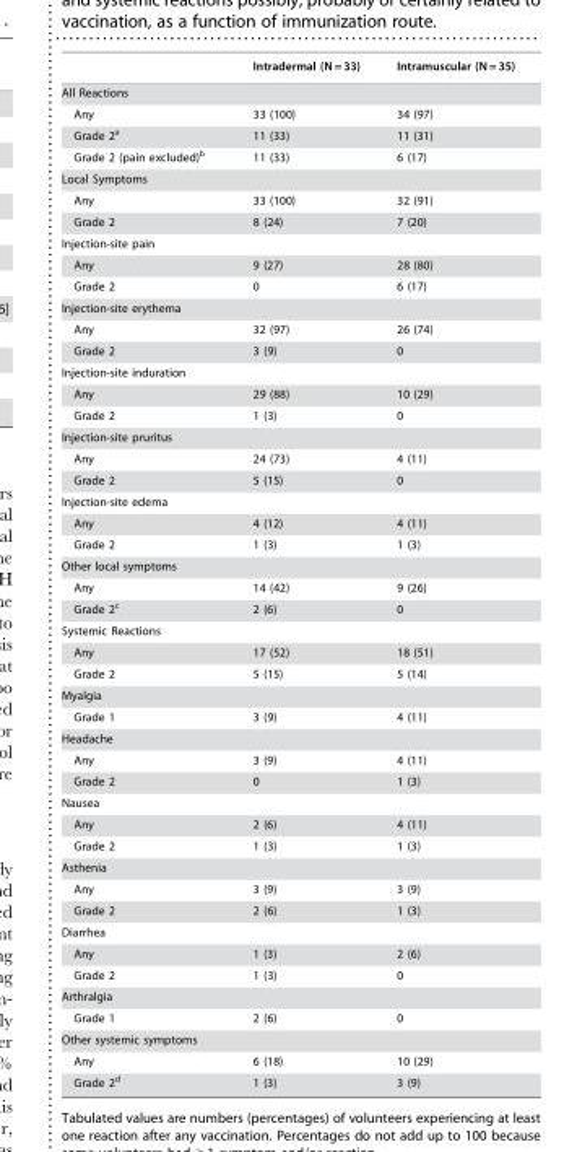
<table><thead><tr><td></td><td>Intradermal (N = 33)</td><td>Intramuscular (N = 35)</td></tr></thead><tbody><tr><td colspan="3">All Reactions</td></tr><tr><td>Any</td><td>33 (100)</td><td>34 (97)</td></tr><tr><td>Grade 2<sup>a</sup></td><td>11 (33)</td><td>11 (31)</td></tr><tr><td>Grade 2 (pain excluded)<sup>b</sup></td><td>11 (33)</td><td>6 (17)</td></tr><tr><td colspan="3">Local Symptoms</td></tr><tr><td>Any</td><td>33 (100)</td><td>32 (91)</td></tr><tr><td>Grade 2</td><td>8 (24)</td><td>7 (20)</td></tr><tr><td colspan="3">Injection-site pain</td></tr><tr><td>Any</td><td>9 (27)</td><td>28 (80)</td></tr><tr><td>Grade 2</td><td>0</td><td>6 (17)</td></tr><tr><td colspan="3">Injection-site erythema</td></tr><tr><td>Any</td><td>32 (97)</td><td>26 (74)</td></tr><tr><td>Grade 2</td><td>3 (9)</td><td>0</td></tr><tr><td colspan="3">Injection-site induration</td></tr><tr><td>Any</td><td>29 (88)</td><td>10 (29)</td></tr><tr><td>Grade 2</td><td>1 (3)</td><td>0</td></tr><tr><td colspan="3">Injection-site pruritus</td></tr><tr><td>Any</td><td>24 (73)</td><td>4 (11)</td></tr><tr><td>Grade 2</td><td>5 (15)</td><td>0</td></tr><tr><td colspan="3">Injection-site edema</td></tr><tr><td>Any</td><td>4 (12)</td><td>4 (11)</td></tr><tr><td>Grade 2</td><td>1 (3)</td><td>1 (3)</td></tr><tr><td colspan="3">Other local symptoms</td></tr><tr><td>Any</td><td>14 (42)</td><td>9 (26)</td></tr><tr><td>Grade 2<sup>c</sup></td><td>2 (6)</td><td>0</td></tr><tr><td colspan="3">Systemic Reactions</td></tr><tr><td>Any</td><td>17 (52)</td><td>18 (51)</td></tr><tr><td>Grade 2</td><td>5 (15)</td><td>5 (14)</td></tr><tr><td colspan="3">Myalgia</td></tr><tr><td>Grade 1</td><td>3 (9)</td><td>4 (11)</td></tr><tr><td colspan="3">Headache</td></tr><tr><td>Any</td><td>3 (9)</td><td>4 (11)</td></tr><tr><td>Grade 2</td><td>0</td><td>1 (3)</td></tr><tr><td colspan="3">Nausea</td></tr><tr><td>Any</td><td>2 (6)</td><td>4 (11)</td></tr><tr><td>Grade 2</td><td>1 (3)</td><td>1 (3)</td></tr><tr><td colspan="3">Asthenia</td></tr><tr><td>Any</td><td>3 (9)</td><td>3 (9)</td></tr><tr><td>Grade 2</td><td>2 (6)</td><td>1 (3)</td></tr><tr><td colspan="3">Diarrhea</td></tr><tr><td>Any</td><td>1 (3)</td><td>2 (6)</td></tr><tr><td>Grade 2</td><td>1 (3)</td><td>0</td></tr><tr><td colspan="3">Arthralgia</td></tr><tr><td>Grade 1</td><td>2 (6)</td><td>0</td></tr><tr><td colspan="3">Other systemic symptoms</td></tr><tr><td>Any</td><td>6 (18)</td><td>10 (29)</td></tr><tr><td>Grade 2<sup>d</sup></td><td>1 (3)</td><td>3 (9)</td></tr></tbody></table>